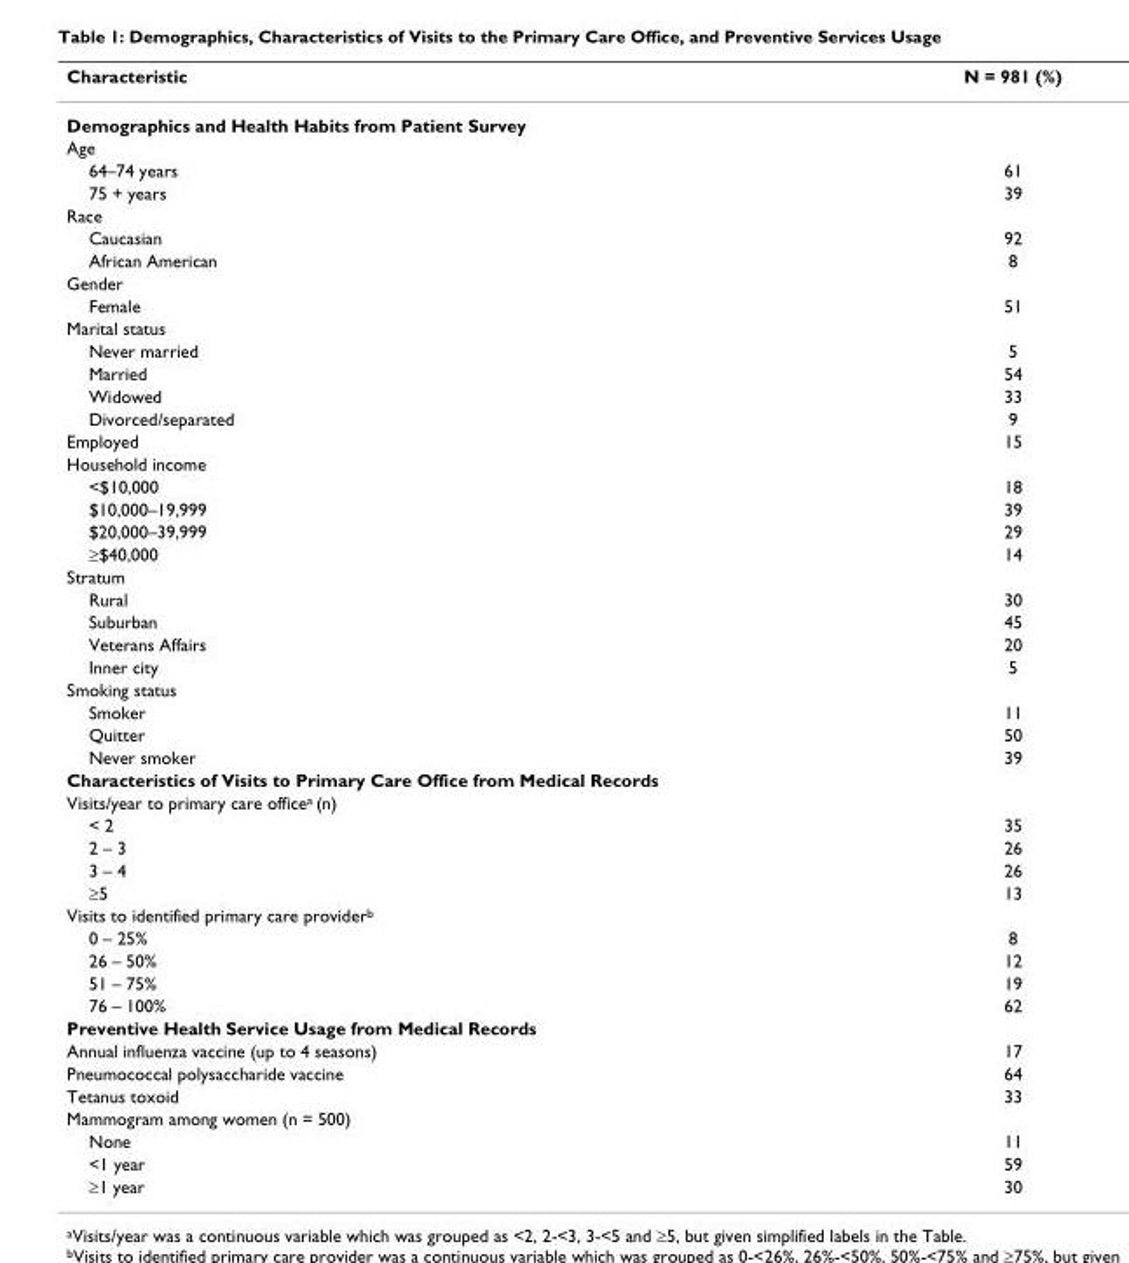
<table><thead><tr><td>Characteristic</td><td>N = 981 (%)</td></tr></thead><tbody><tr><td colspan="2">Demographics and Health Habits from Patient Survey</td></tr><tr><td colspan="2">Age</td></tr><tr><td>64–74 years</td><td>61</td></tr><tr><td>75 + years</td><td>39</td></tr><tr><td colspan="2">Race</td></tr><tr><td>Caucasian</td><td>92</td></tr><tr><td>African American</td><td>8</td></tr><tr><td colspan="2">Gender</td></tr><tr><td>Female</td><td>51</td></tr><tr><td colspan="2">Marital status</td></tr><tr><td>Never married</td><td>5</td></tr><tr><td>Married</td><td>54</td></tr><tr><td>Widowed</td><td>33</td></tr><tr><td>Divorced/separated</td><td>9</td></tr><tr><td>Employed</td><td>15</td></tr><tr><td colspan="2">Household income</td></tr><tr><td>&lt;$10,000</td><td>18</td></tr><tr><td>$10,000–19,999</td><td>39</td></tr><tr><td>$20,000–39,999</td><td>29</td></tr><tr><td>≥$40,000</td><td>14</td></tr><tr><td colspan="2">Stratum</td></tr><tr><td>Rural</td><td>30</td></tr><tr><td>Suburban</td><td>45</td></tr><tr><td>Veterans Affairs</td><td>20</td></tr><tr><td>Inner city</td><td>5</td></tr><tr><td colspan="2">Smoking status</td></tr><tr><td>Smoker</td><td>11</td></tr><tr><td>Quitter</td><td>50</td></tr><tr><td>Never smoker</td><td>39</td></tr><tr><td colspan="2">Characteristics of Visits to Primary Care Office from Medical Records</td></tr><tr><td colspan="2">Visits/year to primary care officea (n)</td></tr><tr><td>&lt; 2</td><td>35</td></tr><tr><td>2 – 3</td><td>26</td></tr><tr><td>3 – 4</td><td>26</td></tr><tr><td>≥5</td><td>13</td></tr><tr><td colspan="2">Visits to identified primary care providerb</td></tr><tr><td>0 – 25%</td><td>8</td></tr><tr><td>26 – 50%</td><td>12</td></tr><tr><td>51 – 75%</td><td>19</td></tr><tr><td>76 – 100%</td><td>62</td></tr><tr><td colspan="2">Preventive Health Service Usage from Medical Records</td></tr><tr><td>Annual influenza vaccine (up to 4 seasons)</td><td>17</td></tr><tr><td>Pneumococcal polysaccharide vaccine</td><td>64</td></tr><tr><td>Tetanus toxoid</td><td>33</td></tr><tr><td colspan="2">Mammogram among women (n = 500)</td></tr><tr><td>None</td><td>11</td></tr><tr><td>&lt;1 year</td><td>59</td></tr><tr><td>≥1 year</td><td>30</td></tr></tbody></table>